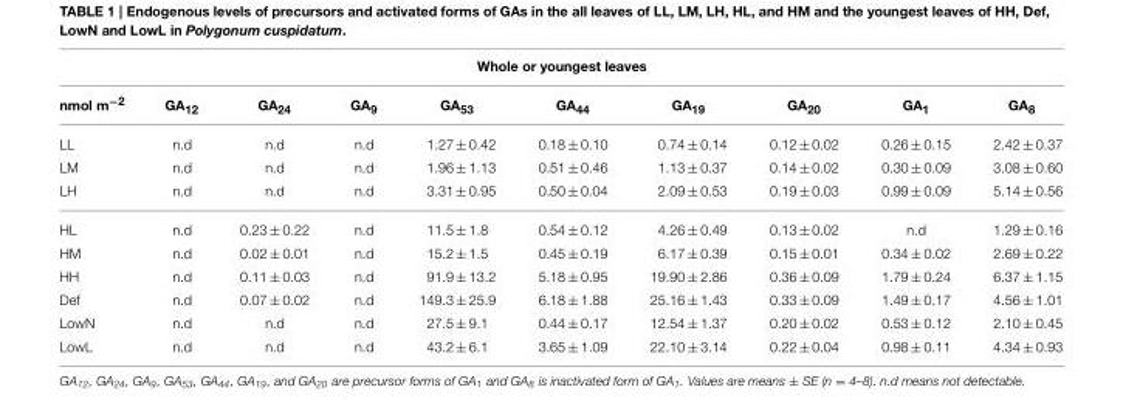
<table><thead><tr><td colspan="10">Whole or youngest leaves</td></tr><tr><td>nmol m<sup>−2</sup></td><td>GA<sub>12</sub></td><td>GA<sub>24</sub></td><td>GA<sub>9</sub></td><td>GA<sub>53</sub></td><td>GA<sub>44</sub></td><td>GA<sub>19</sub></td><td>GA<sub>20</sub></td><td>GA<sub>1</sub></td><td>GA<sub>8</sub></td></tr></thead><tbody><tr><td>LL</td><td>n.d</td><td>n.d</td><td>n.d</td><td>1.27 ± 0.42</td><td>0.18 ± 0.10</td><td>0.74 ± 0.14</td><td>0.12 ± 0.02</td><td>0.26 ± 0.15</td><td>2.42 ± 0.37</td></tr><tr><td>LM</td><td>n.d</td><td>n.d</td><td>n.d</td><td>1.96 ± 1.13</td><td>0.51 ± 0.46</td><td>1.13 ± 0.37</td><td>0.14 ± 0.02</td><td>0.30 ± 0.09</td><td>3.08 ± 0.60</td></tr><tr><td>LH</td><td>n.d</td><td>n.d</td><td>n.d</td><td>3.31 ± 0.95</td><td>0.50 ± 0.04</td><td>2.09 ± 0.53</td><td>0.19 ± 0.03</td><td>0.99 ± 0.09</td><td>5.14 ± 0.56</td></tr><tr><td>HL</td><td>n.d</td><td>0.23 ± 0.22</td><td>n.d</td><td>11.5 ± 1.8</td><td>0.54 ± 0.12</td><td>4.26 ± 0.49</td><td>0.13 ± 0.02</td><td>n.d</td><td>1.29 ± 0.16</td></tr><tr><td>HM</td><td>n.d</td><td>0.02 ± 0.01</td><td>n.d</td><td>15.2 ± 1.5</td><td>0.45 ± 0.19</td><td>6.17 ± 0.39</td><td>0.15 ± 0.01</td><td>0.34 ± 0.02</td><td>2.69 ± 0.22</td></tr><tr><td>HH</td><td>n.d</td><td>0.11 ± 0.03</td><td>n.d</td><td>91.9 ± 13.2</td><td>5.18 ± 0.95</td><td>19.90 ± 2.86</td><td>0.36 ± 0.09</td><td>1.79 ± 0.24</td><td>6.37 ± 1.15</td></tr><tr><td>Def</td><td>n.d</td><td>0.07 ± 0.02</td><td>n.d</td><td>149.3 ± 25.9</td><td>6.18 ± 1.88</td><td>25.16 ± 1.43</td><td>0.33 ± 0.09</td><td>1.49 ± 0.17</td><td>4.56 ± 1.01</td></tr><tr><td>LowN</td><td>n.d</td><td>n.d</td><td>n.d</td><td>27.5 ± 9.1</td><td>0.44 ± 0.17</td><td>12.54 ± 1.37</td><td>0.20 ± 0.02</td><td>0.53 ± 0.12</td><td>2.10 ± 0.45</td></tr><tr><td>LowL</td><td>n.d</td><td>n.d</td><td>n.d</td><td>43.2 ± 6.1</td><td>3.65 ± 1.09</td><td>22.10 ± 3.14</td><td>0.22 ± 0.04</td><td>0.98 ± 0.11</td><td>4.34 ± 0.93</td></tr></tbody></table>